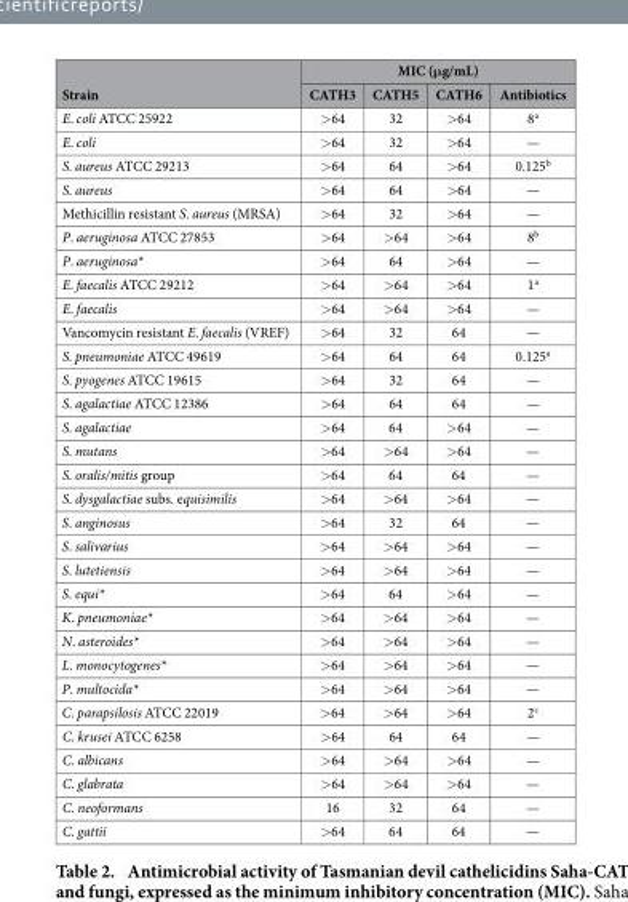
<table><thead><tr><td rowspan="2">Strain</td><td colspan="4">MIC (μg/mL)</td></tr><tr><td>CATH3</td><td>CATH5</td><td>CATH6</td><td>Antibiotics</td></tr></thead><tbody><tr><td>E. coli ATCC 25922</td><td>&gt; 64</td><td>32</td><td>&gt; 64</td><td>8<sup>a</sup></td></tr><tr><td>E. coli</td><td>&gt; 64</td><td>32</td><td>&gt; 64</td><td>—</td></tr><tr><td>S. aureus ATCC 29213</td><td>&gt; 64</td><td>64</td><td>&gt; 64</td><td>0.125<sup>b</sup></td></tr><tr><td>S. aureus</td><td>&gt; 64</td><td>64</td><td>&gt; 64</td><td>—</td></tr><tr><td>Methicillin resistant S. aureus (MRSA)</td><td>&gt; 64</td><td>32</td><td>&gt; 64</td><td>—</td></tr><tr><td>P. aeruginosa ATCC 27853</td><td>&gt; 64</td><td>&gt; 64</td><td>&gt; 64</td><td>8<sup>b</sup></td></tr><tr><td>P. aeruginosa*</td><td>&gt; 64</td><td>64</td><td>&gt; 64</td><td>—</td></tr><tr><td>E. faecalis ATCC 29212</td><td>&gt; 64</td><td>&gt; 64</td><td>&gt; 64</td><td>1<sup>a</sup></td></tr><tr><td>E. faecalis</td><td>&gt; 64</td><td>&gt; 64</td><td>&gt; 64</td><td>—</td></tr><tr><td>Vancomycin resistant E. faecalis (VREF)</td><td>&gt; 64</td><td>32</td><td>64</td><td>—</td></tr><tr><td>S. pneumoniae ATCC 49619</td><td>&gt; 64</td><td>64</td><td>64</td><td>0.125<sup>a</sup></td></tr><tr><td>S. pyogenes ATCC 19615</td><td>&gt; 64</td><td>32</td><td>64</td><td>—</td></tr><tr><td>S. agalactiae ATCC 12386</td><td>&gt; 64</td><td>64</td><td>64</td><td>—</td></tr><tr><td>S. agalactiae</td><td>&gt; 64</td><td>64</td><td>&gt; 64</td><td>—</td></tr><tr><td>S. mutans</td><td>&gt; 64</td><td>&gt; 64</td><td>&gt; 64</td><td>—</td></tr><tr><td>S. oralis/mitis group</td><td>&gt; 64</td><td>64</td><td>64</td><td>—</td></tr><tr><td>S. dysgalactiae subs. equisimilis</td><td>&gt; 64</td><td>&gt; 64</td><td>&gt; 64</td><td>—</td></tr><tr><td>S. anginosus</td><td>&gt; 64</td><td>32</td><td>64</td><td>—</td></tr><tr><td>S. salivarius</td><td>&gt; 64</td><td>&gt; 64</td><td>&gt; 64</td><td>—</td></tr><tr><td>S. lutetiensis</td><td>&gt; 64</td><td>&gt; 64</td><td>&gt; 64</td><td>—</td></tr><tr><td>S. equi*</td><td>&gt; 64</td><td>64</td><td>&gt; 64</td><td>—</td></tr><tr><td>K. pneumoniae*</td><td>&gt; 64</td><td>&gt; 64</td><td>&gt; 64</td><td>—</td></tr><tr><td>N. asteroides*</td><td>&gt; 64</td><td>&gt; 64</td><td>&gt; 64</td><td>—</td></tr><tr><td>L. monocytogenes*</td><td>&gt; 64</td><td>&gt; 64</td><td>&gt; 64</td><td>—</td></tr><tr><td>P. multocida*</td><td>&gt; 64</td><td>&gt; 64</td><td>&gt; 64</td><td>—</td></tr><tr><td>C. parapsilosis ATCC 22019</td><td>&gt; 64</td><td>&gt; 64</td><td>&gt; 64</td><td>2<sup>c</sup></td></tr><tr><td>C. krusei ATCC 6258</td><td>&gt; 64</td><td>64</td><td>64</td><td>—</td></tr><tr><td>C. albicans</td><td>&gt; 64</td><td>&gt; 64</td><td>&gt; 64</td><td>—</td></tr><tr><td>C. glabrata</td><td>&gt; 64</td><td>&gt; 64</td><td>&gt; 64</td><td>—</td></tr><tr><td>C. neoformans</td><td>16</td><td>32</td><td>64</td><td>—</td></tr><tr><td>C. gattii</td><td>&gt; 64</td><td>64</td><td>64</td><td>—</td></tr></tbody></table>